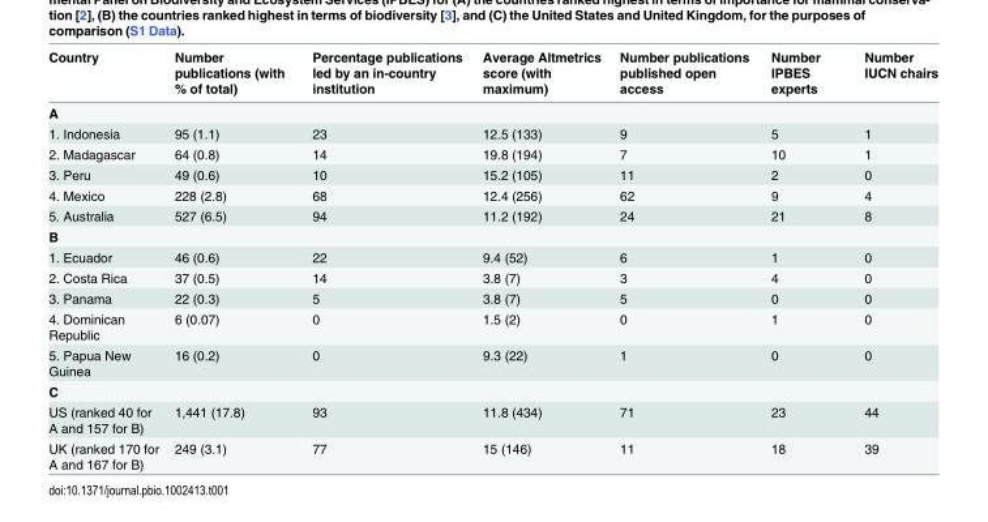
<table><thead><tr><td>Country</td><td>Number publications (with % of total)</td><td>Percentage publications led by an in-country institution</td><td>Average Altmetrics score (with maximum)</td><td>Number publications published open access</td><td>Number IPBES experts</td><td>Number IUCN chairs</td></tr></thead><tbody><tr><td colspan="7">A</td></tr><tr><td>1. Indonesia</td><td>95 (1.1)</td><td>23</td><td>12.5 (133)</td><td>9</td><td>5</td><td>1</td></tr><tr><td>2. Madagascar</td><td>64 (0.8)</td><td>14</td><td>19.8 (194)</td><td>7</td><td>10</td><td>1</td></tr><tr><td>3. Peru</td><td>49 (0.6)</td><td>10</td><td>15.2 (105)</td><td>11</td><td>2</td><td>0</td></tr><tr><td>4. Mexico</td><td>228 (2.8)</td><td>68</td><td>12.4 (256)</td><td>62</td><td>9</td><td>4</td></tr><tr><td>5. Australia</td><td>527 (6.5)</td><td>94</td><td>11.2 (192)</td><td>24</td><td>21</td><td>8</td></tr><tr><td colspan="7">B</td></tr><tr><td>1. Ecuador</td><td>46 (0.6)</td><td>22</td><td>9.4 (52)</td><td>6</td><td>1</td><td>0</td></tr><tr><td>2. Costa Rica</td><td>37 (0.5)</td><td>14</td><td>3.8 (7)</td><td>3</td><td>4</td><td>0</td></tr><tr><td>3. Panama</td><td>22 (0.3)</td><td>5</td><td>3.8 (7)</td><td>5</td><td>0</td><td>0</td></tr><tr><td>4. Dominican Republic</td><td>6 (0.07)</td><td>0</td><td>1.5 (2)</td><td>0</td><td>1</td><td>0</td></tr><tr><td>5. Papua New Guinea</td><td>16 (0.2)</td><td>0</td><td>9.3 (22)</td><td>1</td><td>0</td><td>0</td></tr><tr><td colspan="7">C</td></tr><tr><td>US (ranked 40 for A and 157 for B)</td><td>1,441 (17.8)</td><td>93</td><td>11.8 (434)</td><td>71</td><td>23</td><td>44</td></tr><tr><td>UK (ranked 170 for A and 167 for B)</td><td>249 (3.1)</td><td>77</td><td>15 (146)</td><td>11</td><td>18</td><td>39</td></tr></tbody></table>